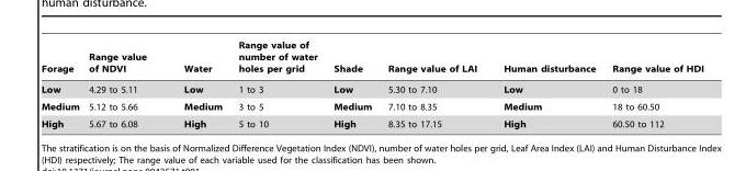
<table><thead><tr><td>Forage</td><td>Range value of NDVI</td><td>Water</td><td>Range value of number of water holes per grid</td><td>Shade</td><td>Range value of LAI</td><td>Human disturbance</td><td>Range value of HDI</td></tr></thead><tbody><tr><td>Low</td><td>4.29 to 5.11</td><td>Low</td><td>1 to 3</td><td>Low</td><td>5.30 to 7.10</td><td>Low</td><td>0 to 18</td></tr><tr><td>Medium</td><td>5.12 to 5.66</td><td>Medium</td><td>3 to 5</td><td>Medium</td><td>7.10 to 8.35</td><td>Medium</td><td>18 to 60.50</td></tr><tr><td>High</td><td>5.67 to 6.08</td><td>High</td><td>5 to 10</td><td>High</td><td>8.35 to 17.15</td><td>High</td><td>60.50 to 112</td></tr></tbody></table>